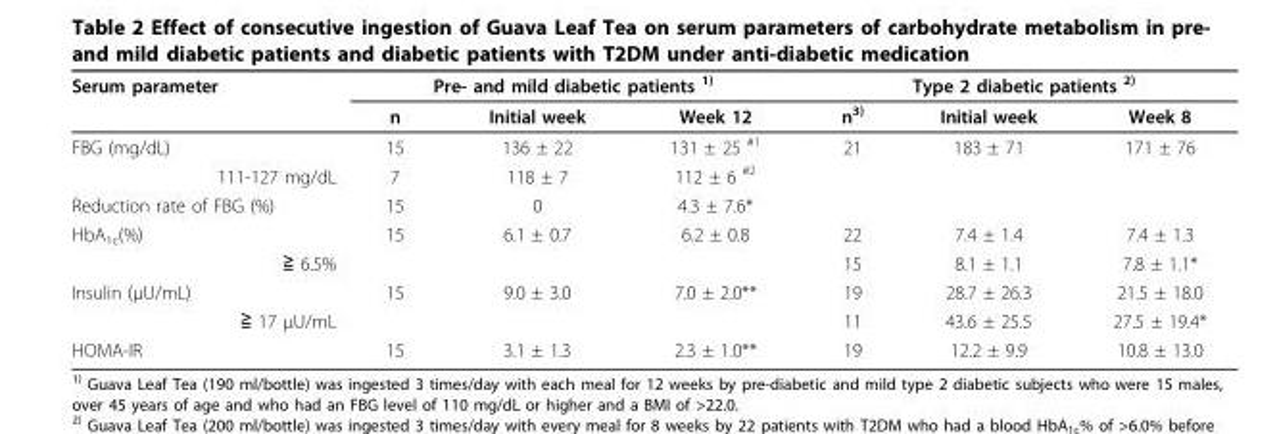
<table><thead><tr><td rowspan="2">Serum parameter</td><td colspan="3">Pre- and mild diabetic patients <sup>1)</sup></td><td colspan="3">Type 2 diabetic patients <sup>2)</sup></td></tr><tr><td>n</td><td>Initial week</td><td>Week 12</td><td>n<sup>3)</sup></td><td>Initial week</td><td>Week 8</td></tr></thead><tbody><tr><td>FBG (mg/dL)</td><td>15</td><td>136 ± 22</td><td>131 ± 25 <sup>#1</sup></td><td>21</td><td>183 ± 71</td><td>171 ± 76</td></tr><tr><td>111-127 mg/dL</td><td>7</td><td>118 ± 7</td><td>112 ± 6 <sup>#2</sup></td><td></td><td></td><td></td></tr><tr><td>Reduction rate of FBG (%)</td><td>15</td><td>0</td><td>4.3 ± 7.6*</td><td></td><td></td><td></td></tr><tr><td>HbA<sub>1c</sub>(%)</td><td>15</td><td>6.1 ± 0.7</td><td>6.2 ± 0.8</td><td>22</td><td>7.4 ± 1.4</td><td>7.4 ± 1.3</td></tr><tr><td>≧ 6.5%</td><td></td><td></td><td></td><td>15</td><td>8.1 ± 1.1</td><td>7.8 ± 1.1*</td></tr><tr><td>Insulin (μU/mL)</td><td>15</td><td>9.0 ± 3.0</td><td>7.0 ± 2.0**</td><td>19</td><td>28.7 ± 26.3</td><td>21.5 ± 18.0</td></tr><tr><td>≧ 17 μU/mL</td><td></td><td></td><td></td><td>11</td><td>43.6 ± 25.5</td><td>27.5 ± 19.4*</td></tr><tr><td>HOMA-IR</td><td>15</td><td>3.1 ± 1.3</td><td>2.3 ± 1.0**</td><td>19</td><td>12.2 ± 9.9</td><td>10.8 ± 13.0</td></tr></tbody></table>